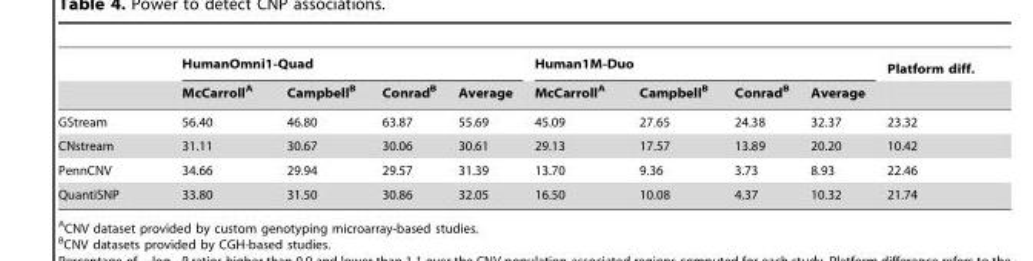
<table><thead><tr><td rowspan="2"></td><td colspan="4">HumanOmni1-Quad</td><td colspan="4">Human1M-Duo</td><td rowspan="2">Platform diff.</td></tr><tr><td>McCarroll<sup>A</sup></td><td>Campbell<sup>B</sup></td><td>Conrad<sup>B</sup></td><td>Average</td><td>McCarroll<sup>A</sup></td><td>Campbell<sup>B</sup></td><td>Conrad<sup>B</sup></td><td>Average</td></tr></thead><tbody><tr><td>GStream</td><td>56.40</td><td>46.80</td><td>63.87</td><td>55.69</td><td>45.09</td><td>27.65</td><td>24.38</td><td>32.37</td><td>23.32</td></tr><tr><td>CNstream</td><td>31.11</td><td>30.67</td><td>30.06</td><td>30.61</td><td>29.13</td><td>17.57</td><td>13.89</td><td>20.20</td><td>10.42</td></tr><tr><td>PennCNV</td><td>34.66</td><td>29.94</td><td>29.57</td><td>31.39</td><td>13.70</td><td>9.36</td><td>3.73</td><td>8.93</td><td>22.46</td></tr><tr><td>QuantiSNP</td><td>33.80</td><td>31.50</td><td>30.86</td><td>32.05</td><td>16.50</td><td>10.08</td><td>4.37</td><td>10.32</td><td>21.74</td></tr></tbody></table>